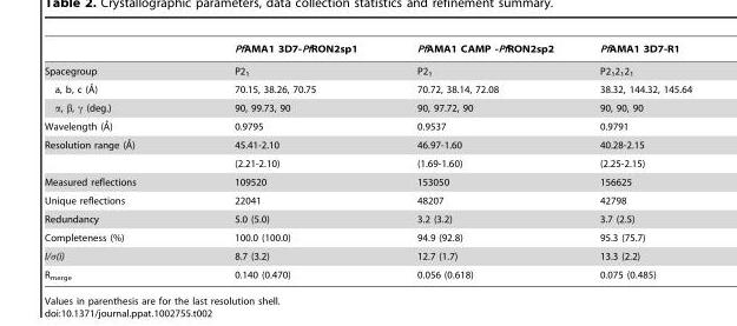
<table><thead><tr><td></td><td>PfAMA1 3D7-PfRON2sp1</td><td>PfAMA1 CAMP -PfRON2sp2</td><td>PfAMA1 3D7-R1</td></tr></thead><tbody><tr><td>Spacegroup</td><td>P2<sub>1</sub></td><td>P2<sub>1</sub></td><td>P2<sub>1</sub>2<sub>1</sub>2<sub>1</sub></td></tr><tr><td>a, b, c (A˚)</td><td>70.15, 38.26, 70.75</td><td>70.72, 38.14, 72.08</td><td>38.32, 144.32, 145.64</td></tr><tr><td>α, β, γ (deg.)</td><td>90, 99.73, 90</td><td>90, 97.72, 90</td><td>90, 90, 90</td></tr><tr><td>Wavelength (A˚)</td><td>0.9795</td><td>0.9537</td><td>0.9791</td></tr><tr><td rowspan="2">Resolution range (A˚)</td><td>45.41-2.10</td><td>46.97-1.60</td><td>40.28-2.15</td></tr><tr><td>(2.21-2.10)</td><td>(1.69-1.60)</td><td>(2.25-2.15)</td></tr><tr><td>Measured reflections</td><td>109520</td><td>153050</td><td>156625</td></tr><tr><td>Unique reflections</td><td>22041</td><td>48207</td><td>42798</td></tr><tr><td>Redundancy</td><td>5.0 (5.0)</td><td>3.2 (3.2)</td><td>3.7 (2.5)</td></tr><tr><td>Completeness (%)</td><td>100.0 (100.0)</td><td>94.9 (92.8)</td><td>95.3 (75.7)</td></tr><tr><td>I/σ(i)</td><td>8.7 (3.2)</td><td>12.7 (1.7)</td><td>13.3 (2.2)</td></tr><tr><td>R<sub>merge</sub></td><td>0.140 (0.470)</td><td>0.056 (0.618)</td><td>0.075 (0.485)</td></tr></tbody></table>